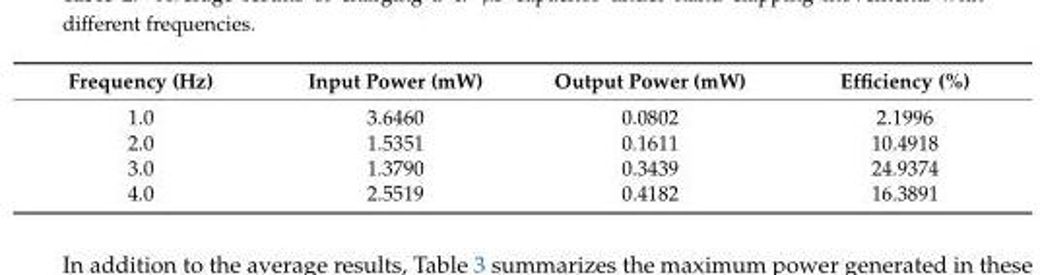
<table><thead><tr><td>Frequency (Hz)</td><td>Input Power (mW)</td><td>Output Power (mW)</td><td>Efficiency (%)</td></tr></thead><tbody><tr><td>1.0</td><td>3.6460</td><td>0.0802</td><td>2.1996</td></tr><tr><td>2.0</td><td>1.5351</td><td>0.1611</td><td>10.4918</td></tr><tr><td>3.0</td><td>1.3790</td><td>0.3439</td><td>24.9374</td></tr><tr><td>4.0</td><td>2.5519</td><td>0.4182</td><td>16.3891</td></tr></tbody></table>